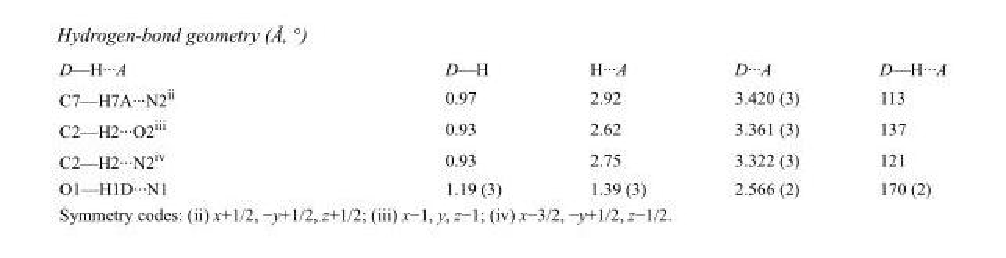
<table><tbody><tr><td>D—H···A</td><td>D—H</td><td>H···A</td><td>D···A</td><td>D—H···A</td></tr><tr><td>C7—H7A···N2<sup>ii</sup></td><td>0.97</td><td>2.92</td><td>3.420 (3)</td><td>113</td></tr><tr><td>C2—H2···O2<sup>iii</sup></td><td>0.93</td><td>2.62</td><td>3.361 (3)</td><td>137</td></tr><tr><td>C2—H2···N2<sup>iv</sup></td><td>0.93</td><td>2.75</td><td>3.322 (3)</td><td>121</td></tr><tr><td>O1—H1D···N1</td><td>1.19 (3)</td><td>1.39 (3)</td><td>2.566 (2)</td><td>170 (2)</td></tr></tbody></table>